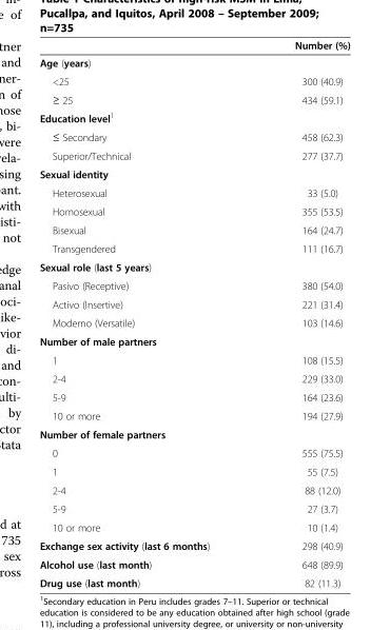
<table><thead><tr><td></td><td>Number (%)</td></tr></thead><tbody><tr><td colspan="2">Age (years)</td></tr><tr><td>&lt;25</td><td>300 (40.9)</td></tr><tr><td>≥ 25</td><td>434 (59.1)</td></tr><tr><td colspan="2">Education level<sup>1</sup></td></tr><tr><td>≤ Secondary</td><td>458 (62.3)</td></tr><tr><td>Superior/Technical</td><td>277 (37.7)</td></tr><tr><td colspan="2">Sexual identity</td></tr><tr><td>Heterosexual</td><td>33 (5.0)</td></tr><tr><td>Homosexual</td><td>355 (53.5)</td></tr><tr><td>Bisexual</td><td>164 (24.7)</td></tr><tr><td>Transgendered</td><td>111 (16.7)</td></tr><tr><td colspan="2">Sexual role (last 5 years)</td></tr><tr><td>Pasivo (Receptive)</td><td>380 (54.0)</td></tr><tr><td>Activo (Insertive)</td><td>221 (31.4)</td></tr><tr><td>Moderno (Versatile)</td><td>103 (14.6)</td></tr><tr><td colspan="2">Number of male partners</td></tr><tr><td>1</td><td>108 (15.5)</td></tr><tr><td>2-4</td><td>229 (33.0)</td></tr><tr><td>5-9</td><td>164 (23.6)</td></tr><tr><td>10 or more</td><td>194 (27.9)</td></tr><tr><td colspan="2">Number of female partners</td></tr><tr><td>0</td><td>555 (75.5)</td></tr><tr><td>1</td><td>55 (7.5)</td></tr><tr><td>2-4</td><td>88 (12.0)</td></tr><tr><td>5-9</td><td>27 (3.7)</td></tr><tr><td>10 or more</td><td>10 (1.4)</td></tr><tr><td>Exchange sex activity (last 6 months)</td><td>298 (40.9)</td></tr><tr><td>Alcohol use (last month)</td><td>648 (89.9)</td></tr><tr><td>Drug use (last month)</td><td>82 (11.3)</td></tr></tbody></table>